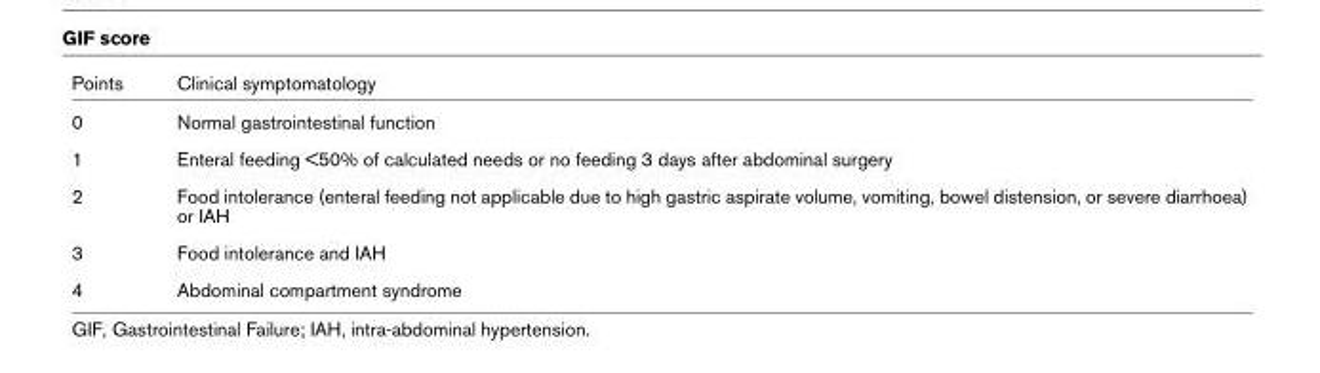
<table><thead><tr><td>Points</td><td>Clinical symptomatology</td></tr></thead><tbody><tr><td>0</td><td>Normal gastrointestinal function</td></tr><tr><td>1</td><td>Enteral feeding &lt;50% of calculated needs or no feeding 3 days after abdominal surgery</td></tr><tr><td>2</td><td>Food intolerance (enteral feeding not applicable due to high gastric aspirate volume, vomiting, bowel distension, or severe diarrhoea) or IAH</td></tr><tr><td>3</td><td>Food intolerance and IAH</td></tr><tr><td>4</td><td>Abdominal compartment syndrome</td></tr></tbody></table>